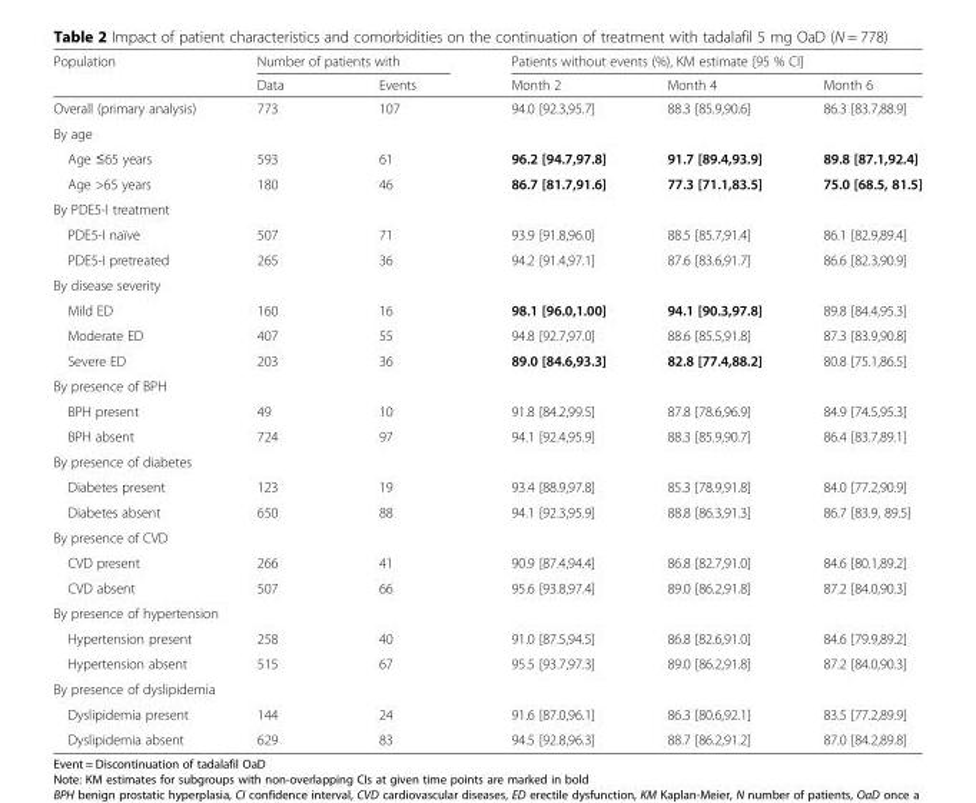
<table><thead><tr><td rowspan="2">Population</td><td colspan="2">Number of patients with</td><td colspan="3">Patients without events (%), KM estimate [95 % CI]</td></tr><tr><td>Data</td><td>Events</td><td>Month 2</td><td>Month 4</td><td>Month 6</td></tr></thead><tbody><tr><td>Overall (primary analysis)</td><td>773</td><td>107</td><td>94.0 [92.3,95.7]</td><td>88.3 [85.9,90.6]</td><td>86.3 [83.7,88.9]</td></tr><tr><td colspan="6">By age</td></tr><tr><td>Age ≤65 years</td><td>593</td><td>61</td><td>96.2 [94.7,97.8]</td><td>91.7 [89.4,93.9]</td><td>89.8 [87.1,92.4]</td></tr><tr><td>Age &gt;65 years</td><td>180</td><td>46</td><td>86.7 [81.7,91.6]</td><td>77.3 [71.1,83.5]</td><td>75.0 [68.5, 81.5]</td></tr><tr><td colspan="6">By PDE5-I treatment</td></tr><tr><td>PDE5-I naïve</td><td>507</td><td>71</td><td>93.9 [91.8,96.0]</td><td>88.5 [85.7,91.4]</td><td>86.1 [82.9,89.4]</td></tr><tr><td>PDE5-I pretreated</td><td>265</td><td>36</td><td>94.2 [91.4,97.1]</td><td>87.6 [83.6,91.7]</td><td>86.6 [82.3,90.9]</td></tr><tr><td colspan="6">By disease severity</td></tr><tr><td>Mild ED</td><td>160</td><td>16</td><td>98.1 [96.0,1.00]</td><td>94.1 [90.3,97.8]</td><td>89.8 [84.4,95.3]</td></tr><tr><td>Moderate ED</td><td>407</td><td>55</td><td>94.8 [92.7,97.0]</td><td>88.6 [85.5,91.8]</td><td>87.3 [83.9,90.8]</td></tr><tr><td>Severe ED</td><td>203</td><td>36</td><td>89.0 [84.6,93.3]</td><td>82.8 [77.4,88.2]</td><td>80.8 [75.1,86.5]</td></tr><tr><td colspan="6">By presence of BPH</td></tr><tr><td>BPH present</td><td>49</td><td>10</td><td>91.8 [84.2,99.5]</td><td>87.8 [78.6,96.9]</td><td>84.9 [74.5,95.3]</td></tr><tr><td>BPH absent</td><td>724</td><td>97</td><td>94.1 [92.4,95.9]</td><td>88.3 [85.9,90.7]</td><td>86.4 [83.7,89.1]</td></tr><tr><td colspan="6">By presence of diabetes</td></tr><tr><td>Diabetes present</td><td>123</td><td>19</td><td>93.4 [88.9,97.8]</td><td>85.3 [78.9,91.8]</td><td>84.0 [77.2,90.9]</td></tr><tr><td>Diabetes absent</td><td>650</td><td>88</td><td>94.1 [92.3,95.9]</td><td>88.8 [86.3,91.3]</td><td>86.7 [83.9, 89.5]</td></tr><tr><td colspan="6">By presence of CVD</td></tr><tr><td>CVD present</td><td>266</td><td>41</td><td>90.9 [87.4,94.4]</td><td>86.8 [82.7,91.0]</td><td>84.6 [80.1,89.2]</td></tr><tr><td>CVD absent</td><td>507</td><td>66</td><td>95.6 [93.8,97.4]</td><td>89.0 [86.2,91.8]</td><td>87.2 [84.0,90.3]</td></tr><tr><td colspan="6">By presence of hypertension</td></tr><tr><td>Hypertension present</td><td>258</td><td>40</td><td>91.0 [87.5,94.5]</td><td>86.8 [82.6,91.0]</td><td>84.6 [79.9,89.2]</td></tr><tr><td>Hypertension absent</td><td>515</td><td>67</td><td>95.5 [93.7,97.3]</td><td>89.0 [86.2,91.8]</td><td>87.2 [84.0,90.3]</td></tr><tr><td colspan="6">By presence of dyslipidemia</td></tr><tr><td>Dyslipidemia present</td><td>144</td><td>24</td><td>91.6 [87.0,96.1]</td><td>86.3 [80.6,92.1]</td><td>83.5 [77.2,89.9]</td></tr><tr><td>Dyslipidemia absent</td><td>629</td><td>83</td><td>94.5 [92.8,96.3]</td><td>88.7 [86.2,91.2]</td><td>87.0 [84.2,89.8]</td></tr></tbody></table>